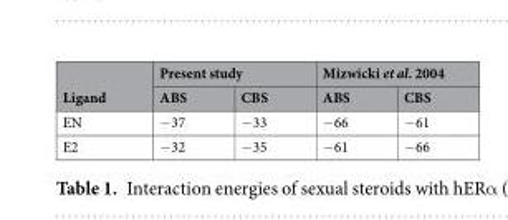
<table><thead><tr><td rowspan="2">Ligand</td><td colspan="2">Present study</td><td colspan="2">Mizwicki et al. 2004</td></tr><tr><td>ABS</td><td>CBS</td><td>ABS</td><td>CBS</td></tr></thead><tbody><tr><td>EN</td><td>−37</td><td>−33</td><td>−66</td><td>−61</td></tr><tr><td>E2</td><td>−32</td><td>−35</td><td>−61</td><td>−66</td></tr></tbody></table>